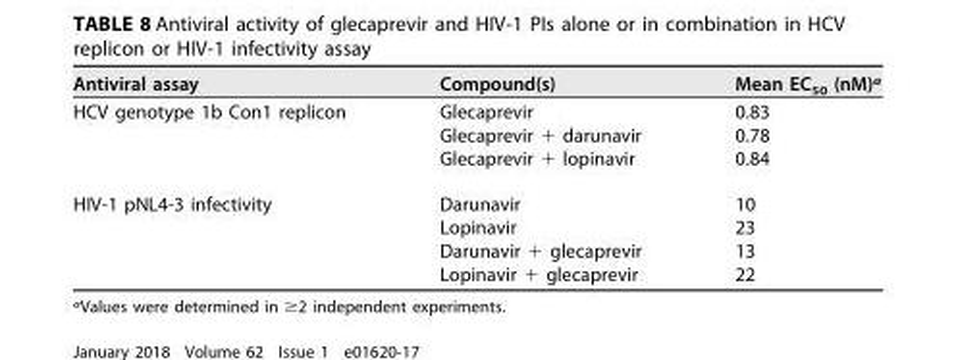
<table><thead><tr><td>Antiviral assay</td><td>Compound(s)</td><td>Mean EC<sub>50</sub> (nM)<sup>a</sup></td></tr></thead><tbody><tr><td rowspan="3">HCV genotype 1b Con1 replicon</td><td>Glecaprevir</td><td>0.83</td></tr><tr><td>Glecaprevir + darunavir</td><td>0.78</td></tr><tr><td>Glecaprevir + lopinavir</td><td>0.84</td></tr><tr><td rowspan="4">HIV-1 pNL4-3 infectivity</td><td>Darunavir</td><td>10</td></tr><tr><td>Lopinavir</td><td>23</td></tr><tr><td>Darunavir + glecaprevir</td><td>13</td></tr><tr><td>Lopinavir + glecaprevir</td><td>22</td></tr></tbody></table>